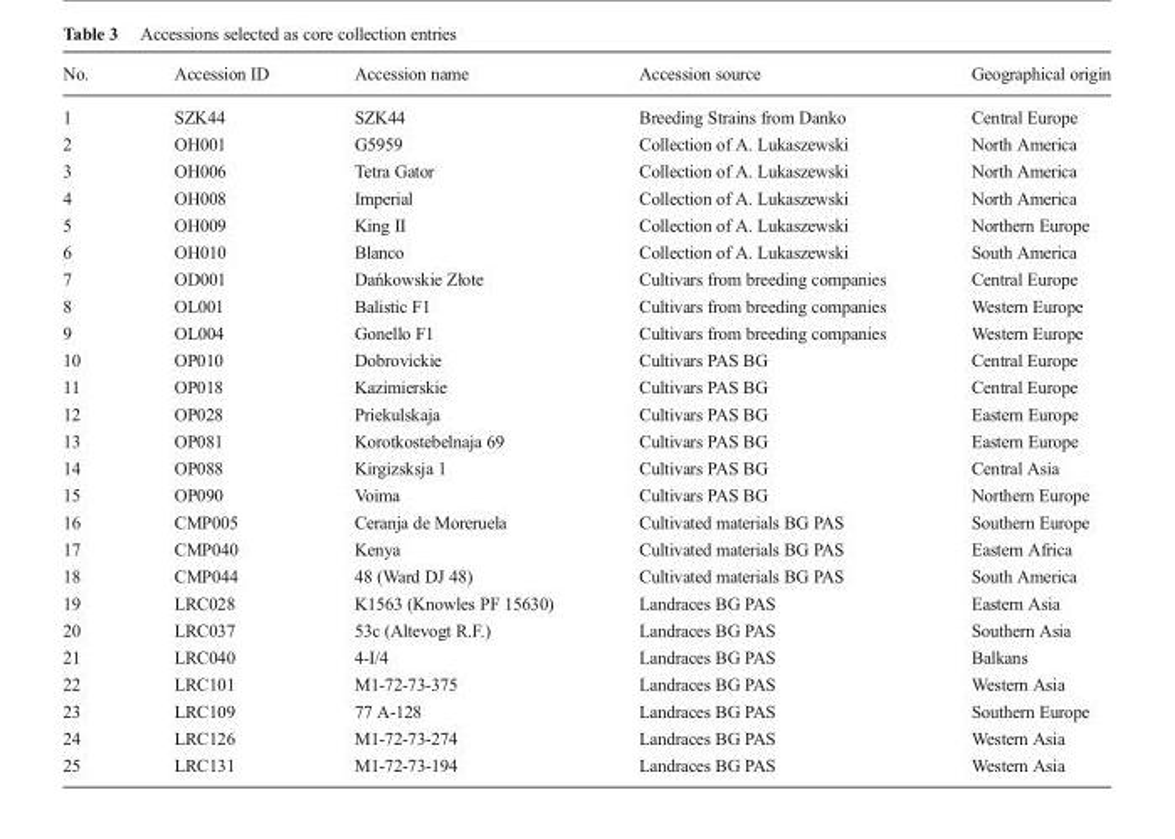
<table><thead><tr><td>No.</td><td>Accession ID</td><td>Accession name</td><td>Accession source</td><td>Geographical origin</td></tr></thead><tbody><tr><td>1</td><td>SZK44</td><td>SZK44</td><td>Breeding Strains from Danko</td><td>Central Europe</td></tr><tr><td>2</td><td>OH001</td><td>G5959</td><td>Collection of A. Lukaszewski</td><td>North America</td></tr><tr><td>3</td><td>OH006</td><td>Tetra Gator</td><td>Collection of A. Lukaszewski</td><td>North America</td></tr><tr><td>4</td><td>OH008</td><td>Imperial</td><td>Collection of A. Lukaszewski</td><td>North America</td></tr><tr><td>5</td><td>OH009</td><td>King II</td><td>Collection of A. Lukaszewski</td><td>Northern Europe</td></tr><tr><td>6</td><td>OH010</td><td>Blanco</td><td>Collection of A. Lukaszewski</td><td>South America</td></tr><tr><td>7</td><td>OD001</td><td>Dańkowskie Złote</td><td>Cultivars from breeding companies</td><td>Central Europe</td></tr><tr><td>8</td><td>OL001</td><td>Balistic F1</td><td>Cultivars from breeding companies</td><td>Western Europe</td></tr><tr><td>9</td><td>OL004</td><td>Gonello F1</td><td>Cultivars from breeding companies</td><td>Western Europe</td></tr><tr><td>10</td><td>OP010</td><td>Dobrovickie</td><td>Cultivars PAS BG</td><td>Central Europe</td></tr><tr><td>11</td><td>OP018</td><td>Kazimierskie</td><td>Cultivars PAS BG</td><td>Central Europe</td></tr><tr><td>12</td><td>OP028</td><td>Priekulskaja</td><td>Cultivars PAS BG</td><td>Eastern Europe</td></tr><tr><td>13</td><td>OP081</td><td>Korotkostebelnaja 69</td><td>Cultivars PAS BG</td><td>Eastern Europe</td></tr><tr><td>14</td><td>OP088</td><td>Kirgizsksja 1</td><td>Cultivars PAS BG</td><td>Central Asia</td></tr><tr><td>15</td><td>OP090</td><td>Voima</td><td>Cultivars PAS BG</td><td>Northern Europe</td></tr><tr><td>16</td><td>CMP005</td><td>Ceranja de Moreruela</td><td>Cultivated materials BG PAS</td><td>Southern Europe</td></tr><tr><td>17</td><td>CMP040</td><td>Kenya</td><td>Cultivated materials BG PAS</td><td>Eastern Africa</td></tr><tr><td>18</td><td>CMP044</td><td>48 (Ward DJ 48)</td><td>Cultivated materials BG PAS</td><td>South America</td></tr><tr><td>19</td><td>LRC028</td><td>K1563 (Knowles PF 15630)</td><td>Landraces BG PAS</td><td>Eastern Asia</td></tr><tr><td>20</td><td>LRC037</td><td>53c (Altevogt R.F.)</td><td>Landraces BG PAS</td><td>Southern Asia</td></tr><tr><td>21</td><td>LRC040</td><td>4-I/4</td><td>Landraces BG PAS</td><td>Balkans</td></tr><tr><td>22</td><td>LRC101</td><td>M1-72-73-375</td><td>Landraces BG PAS</td><td>Western Asia</td></tr><tr><td>23</td><td>LRC109</td><td>77 A-128</td><td>Landraces BG PAS</td><td>Southern Europe</td></tr><tr><td>24</td><td>LRC126</td><td>M1-72-73-274</td><td>Landraces BG PAS</td><td>Western Asia</td></tr><tr><td>25</td><td>LRC131</td><td>M1-72-73-194</td><td>Landraces BG PAS</td><td>Western Asia</td></tr></tbody></table>